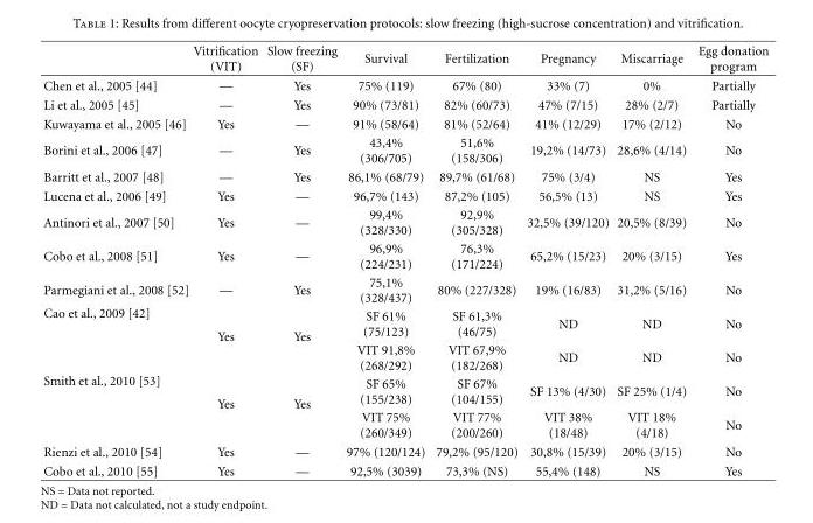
<table><thead><tr><td></td><td>Vitrification (VIT)</td><td>Slow freezing (SF)</td><td>Survival</td><td>Fertilization</td><td>Pregnancy</td><td>Miscarriage</td><td>Egg donation program</td></tr></thead><tbody><tr><td>Chen et al., 2005 [44]</td><td>—</td><td>Yes</td><td>75% (119)</td><td>67% (80)</td><td>33% (7)</td><td>0%</td><td>Partially</td></tr><tr><td>Li et al., 2005 [45]</td><td>—</td><td>Yes</td><td>90% (73/81)</td><td>82% (60/73)</td><td>47% (7/15)</td><td>28% (2/7)</td><td>Partially</td></tr><tr><td>Kuwayama et al., 2005 [46]</td><td>Yes</td><td>—</td><td>91% (58/64)</td><td>81% (52/64)</td><td>41% (12/29)</td><td>17% (2/12)</td><td>No</td></tr><tr><td>Borini et al., 2006 [47]</td><td>—</td><td>Yes</td><td>43,4% (306/705)</td><td>51,6% (158/306)</td><td>19,2% (14/73)</td><td>28,6% (4/14)</td><td>No</td></tr><tr><td>Barritt et al., 2007 [48]</td><td>—</td><td>Yes</td><td>86,1% (68/79)</td><td>89,7% (61/68)</td><td>75% (3/4)</td><td>NS</td><td>Yes</td></tr><tr><td>Lucena et al., 2006 [49]</td><td>Yes</td><td>—</td><td>96,7% (143)</td><td>87,2% (105)</td><td>56,5% (13)</td><td>NS</td><td>Yes</td></tr><tr><td>Antinori et al., 2007 [50]</td><td>Yes</td><td>—</td><td>99,4% (328/330)</td><td>92,9% (305/328)</td><td>32,5% (39/120)</td><td>20,5% (8/39)</td><td>No</td></tr><tr><td>Cobo et al., 2008 [51]</td><td>Yes</td><td>—</td><td>96,9% (224/231)</td><td>76,3% (171/224)</td><td>65,2% (15/23)</td><td>20% (3/15)</td><td>Yes</td></tr><tr><td>Parmegiani et al., 2008 [52]</td><td>—</td><td>Yes</td><td>75,1% (328/437)</td><td>80% (227/328)</td><td>19% (16/83)</td><td>31,2% (5/16)</td><td>No</td></tr><tr><td rowspan="2">Cao et al., 2009 [42]</td><td rowspan="2">Yes</td><td rowspan="2">Yes</td><td>SF 61% (75/123)</td><td>SF 61,3% (46/75)</td><td>ND</td><td>ND</td><td>No</td></tr><tr><td>VIT 91,8% (268/292)</td><td>VIT 67,9% (182/268)</td><td>ND</td><td>ND</td><td>No</td></tr><tr><td rowspan="2">Smith et al., 2010 [53]</td><td rowspan="2">Yes</td><td rowspan="2">Yes</td><td>SF 65% (155/238)</td><td>SF 67% (104/155)</td><td>SF 13% (4/30)</td><td>SF 25% (1/4)</td><td>No</td></tr><tr><td>VIT 75% (260/349)</td><td>VIT 77% (200/260)</td><td>VIT 38% (18/48)</td><td>VIT 18% (4/18)</td><td>No</td></tr><tr><td>Rienzi et al., 2010 [54]</td><td>Yes</td><td>—</td><td>97% (120/124)</td><td>79,2% (95/120)</td><td>30,8% (15/39)</td><td>20% (3/15)</td><td>No</td></tr><tr><td>Cobo et al., 2010 [55]</td><td>Yes</td><td>—</td><td>92,5% (3039)</td><td>73,3% (NS)</td><td>55,4% (148)</td><td>NS</td><td>Yes</td></tr></tbody></table>